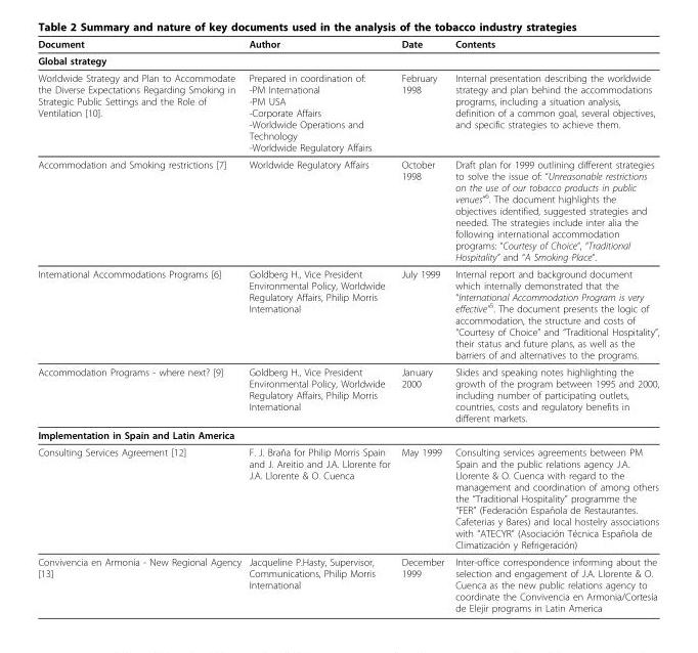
<table><thead><tr><td>Document</td><td>Author</td><td>Date</td><td>Contents</td></tr></thead><tbody><tr><td colspan="4">Global strategy</td></tr><tr><td>Worldwide Strategy and Plan to Accommodate the Diverse Expectations Regarding Smoking in Strategic Public Settings and the Role of Ventilation [10].</td><td>Prepared in coordination of: -PM International -PM USA -Corporate Affairs -Worldwide Operations and Technology -Worldwide Regulatory Affairs</td><td>February 1998</td><td>Internal presentation describing the worldwide strategy and plan behind the accommodations programs, including a situation analysis, definition of a common goal, several objectives, and specific strategies to achieve them.</td></tr><tr><td>Accommodation and Smoking restrictions [7]</td><td>Worldwide Regulatory Affairs</td><td>October 1998</td><td>Draft plan for 1999 outlining different strategies to solve the issue of: “Unreasonable restrictions on the use of our tobacco products in public venues“6. The document highlights the objectives identified, suggested strategies and needed. The strategies include inter alia the following international accommodation programs: “Courtesy of Choice“, “Traditional Hospitality” and “A Smoking Place“.</td></tr><tr><td>International Accommodations Programs [6]</td><td>Goldberg H., Vice President Environmental Policy, Worldwide Regulatory Affairs, Philip Morris International</td><td>July 1999</td><td>Internal report and background document which internally demonstrated that the “International Accommodation Program is very effective”5. The document presents the logic of accommodation, the structure and costs of “Courtesy of Choice” and “Traditional Hospitality”, their status and future plans, as well as the barriers of and alternatives to the programs.</td></tr><tr><td>Accommodation Programs - where next? [9]</td><td>Goldberg H., Vice President Environmental Policy, Worldwide Regulatory Affairs, Philip Morris International</td><td>January 2000</td><td>Slides and speaking notes highlighting the growth of the program between 1995 and 2000, including number of participating outlets, countries, costs and regulatory benefits in different markets.</td></tr><tr><td colspan="4">Implementation in Spain and Latin America</td></tr><tr><td>Consulting Services Agreement [12]</td><td>F. J. Braña for Philip Morris Spain and J. Areitio and J.A. Llorente for J.A. Llorente &amp; O. Cuenca</td><td>May 1999</td><td>Consulting services agreements between PM Spain and the public relations agency J.A. Llorente &amp; O. Cuenca with regard to the management and coordination of among others the “Traditional Hospitality” programme the “FER” (Federación Española de Restaurantes. Cafeterias y Bares) and local hostelry associations with “ATECYR” (Asociación Técnica Española de Climatización y Refrigeración)</td></tr><tr><td>Convivencia en Armonía - New Regional Agency [13]</td><td>Jacqueline P.Hasty, Supervisor, Communications, Philip Morris International</td><td>December 1999</td><td>Inter-office correspondence informing about the selection and engagement of J.A. Llorente &amp; O. Cuenca as the new public relations agency to coordinate the Convivencia en Armonia/Cortesía de Elejir programs in Latin America</td></tr></tbody></table>